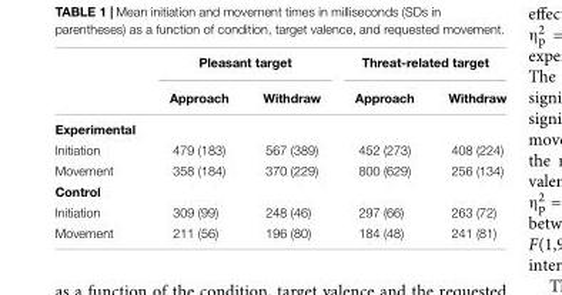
<table><thead><tr><td rowspan="2"></td><td colspan="2">Pleasant target</td><td colspan="2">Threat-related target</td></tr><tr><td>Approach</td><td>Withdraw</td><td>Approach</td><td>Withdraw</td></tr></thead><tbody><tr><td colspan="5">Experimental</td></tr><tr><td>Initiation</td><td>479 (183)</td><td>567 (389)</td><td>452 (273)</td><td>408 (224)</td></tr><tr><td>Movement</td><td>358 (184)</td><td>370 (229)</td><td>800 (629)</td><td>256 (134)</td></tr><tr><td colspan="5">Control</td></tr><tr><td>Initiation</td><td>309 (99)</td><td>248 (46)</td><td>297 (66)</td><td>263 (72)</td></tr><tr><td>Movement</td><td>211 (56)</td><td>196 (80)</td><td>184 (48)</td><td>241 (81)</td></tr></tbody></table>